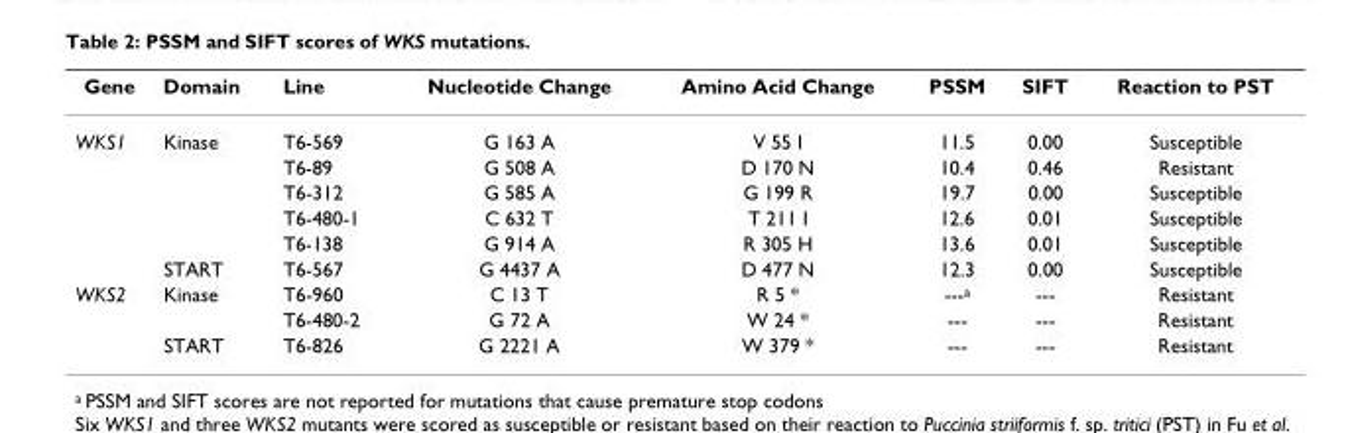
<table><thead><tr><td>Gene</td><td>Domain</td><td>Line</td><td>Nucleotide Change</td><td>Amino Acid Change</td><td>PSSM</td><td>SIFT</td><td>Reaction to PST</td></tr></thead><tbody><tr><td rowspan="6">WKS1</td><td>Kinase</td><td>T6-569</td><td>G 163 A</td><td>V 55 I</td><td>11.5</td><td>0.00</td><td>Susceptible</td></tr><tr><td></td><td>T6-89</td><td>G 508 A</td><td>D 170 N</td><td>10.4</td><td>0.46</td><td>Resistant</td></tr><tr><td></td><td>T6-312</td><td>G 585 A</td><td>G 199 R</td><td>19.7</td><td>0.00</td><td>Susceptible</td></tr><tr><td></td><td>T6-480-1</td><td>C 632 T</td><td>T 211 I</td><td>12.6</td><td>0.01</td><td>Susceptible</td></tr><tr><td></td><td>T6-138</td><td>G 914 A</td><td>R 305 H</td><td>13.6</td><td>0.01</td><td>Susceptible</td></tr><tr><td>START</td><td>T6-567</td><td>G 4437 A</td><td>D 477 N</td><td>12.3</td><td>0.00</td><td>Susceptible</td></tr><tr><td rowspan="3">WKS2</td><td>Kinase</td><td>T6-960</td><td>C 13 T</td><td>R 5 *</td><td>---<sup>a</sup></td><td>---</td><td>Resistant</td></tr><tr><td></td><td>T6-480-2</td><td>G 72 A</td><td>W 24 *</td><td>---</td><td>---</td><td>Resistant</td></tr><tr><td>START</td><td>T6-826</td><td>G 2221 A</td><td>W 379 *</td><td>---</td><td>---</td><td>Resistant</td></tr></tbody></table>